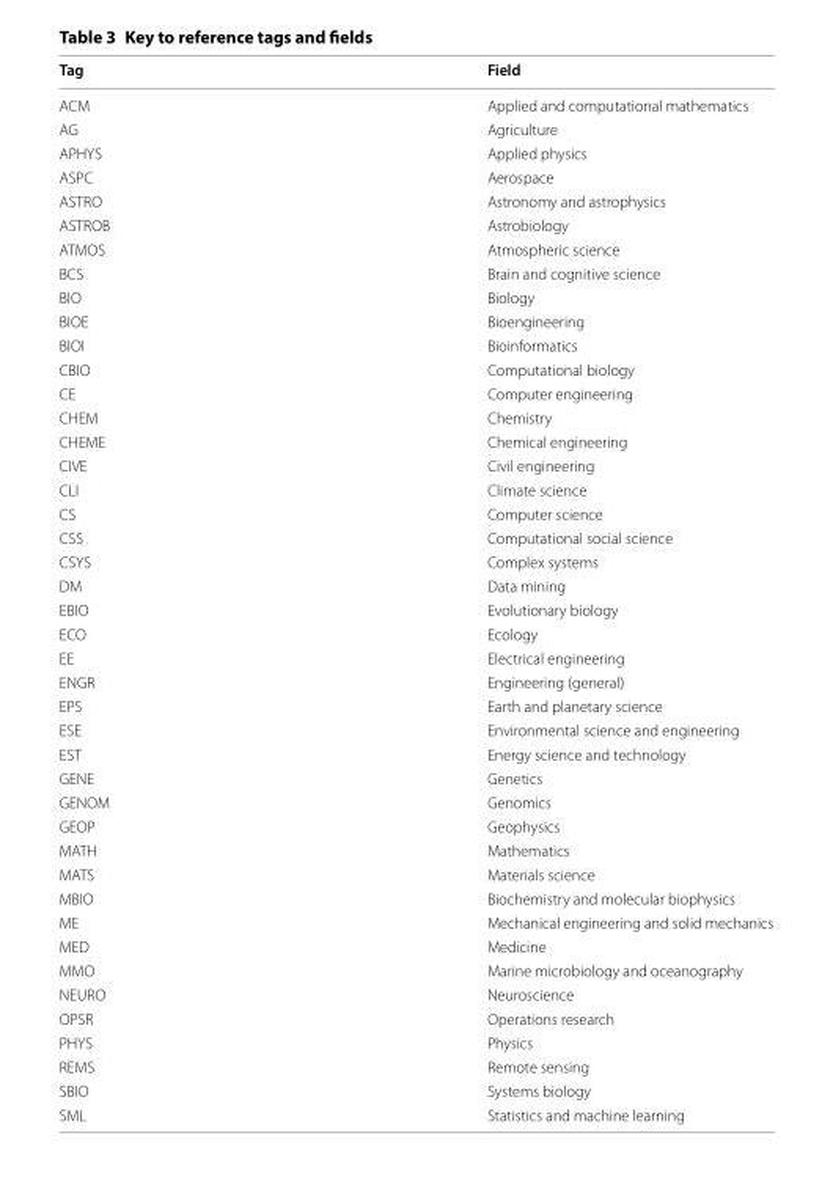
<table><thead><tr><td>Tag</td><td>Field</td></tr></thead><tbody><tr><td>ACM</td><td>Applied and computational mathematics</td></tr><tr><td>AG</td><td>Agriculture</td></tr><tr><td>APHYS</td><td>Applied physics</td></tr><tr><td>ASPC</td><td>Aerospace</td></tr><tr><td>ASTRO</td><td>Astronomy and astrophysics</td></tr><tr><td>ASTROB</td><td>Astrobiology</td></tr><tr><td>ATMOS</td><td>Atmospheric science</td></tr><tr><td>BCS</td><td>Brain and cognitive science</td></tr><tr><td>BIO</td><td>Biology</td></tr><tr><td>BIOE</td><td>Bioengineering</td></tr><tr><td>BIOI</td><td>Bioinformatics</td></tr><tr><td>CBIO</td><td>Computational biology</td></tr><tr><td>CE</td><td>Computer engineering</td></tr><tr><td>CHEM</td><td>Chemistry</td></tr><tr><td>CHEME</td><td>Chemical engineering</td></tr><tr><td>CIVE</td><td>Civil engineering</td></tr><tr><td>CLI</td><td>Climate science</td></tr><tr><td>CS</td><td>Computer science</td></tr><tr><td>CSS</td><td>Computational social science</td></tr><tr><td>CSYS</td><td>Complex systems</td></tr><tr><td>DM</td><td>Data mining</td></tr><tr><td>EBIO</td><td>Evolutionary biology</td></tr><tr><td>ECO</td><td>Ecology</td></tr><tr><td>EE</td><td>Electrical engineering</td></tr><tr><td>ENGR</td><td>Engineering (general)</td></tr><tr><td>EPS</td><td>Earth and planetary science</td></tr><tr><td>ESE</td><td>Environmental science and engineering</td></tr><tr><td>EST</td><td>Energy science and technology</td></tr><tr><td>GENE</td><td>Genetics</td></tr><tr><td>GENOM</td><td>Genomics</td></tr><tr><td>GEOP</td><td>Geophysics</td></tr><tr><td>MATH</td><td>Mathematics</td></tr><tr><td>MATS</td><td>Materials science</td></tr><tr><td>MBIO</td><td>Biochemistry and molecular biophysics</td></tr><tr><td>ME</td><td>Mechanical engineering and solid mechanics</td></tr><tr><td>MED</td><td>Medicine</td></tr><tr><td>MMO</td><td>Marine microbiology and oceanography</td></tr><tr><td>NEURO</td><td>Neuroscience</td></tr><tr><td>OPSR</td><td>Operations research</td></tr><tr><td>PHYS</td><td>Physics</td></tr><tr><td>REMS</td><td>Remote sensing</td></tr><tr><td>SBIO</td><td>Systems biology</td></tr><tr><td>SML</td><td>Statistics and machine learning</td></tr></tbody></table>